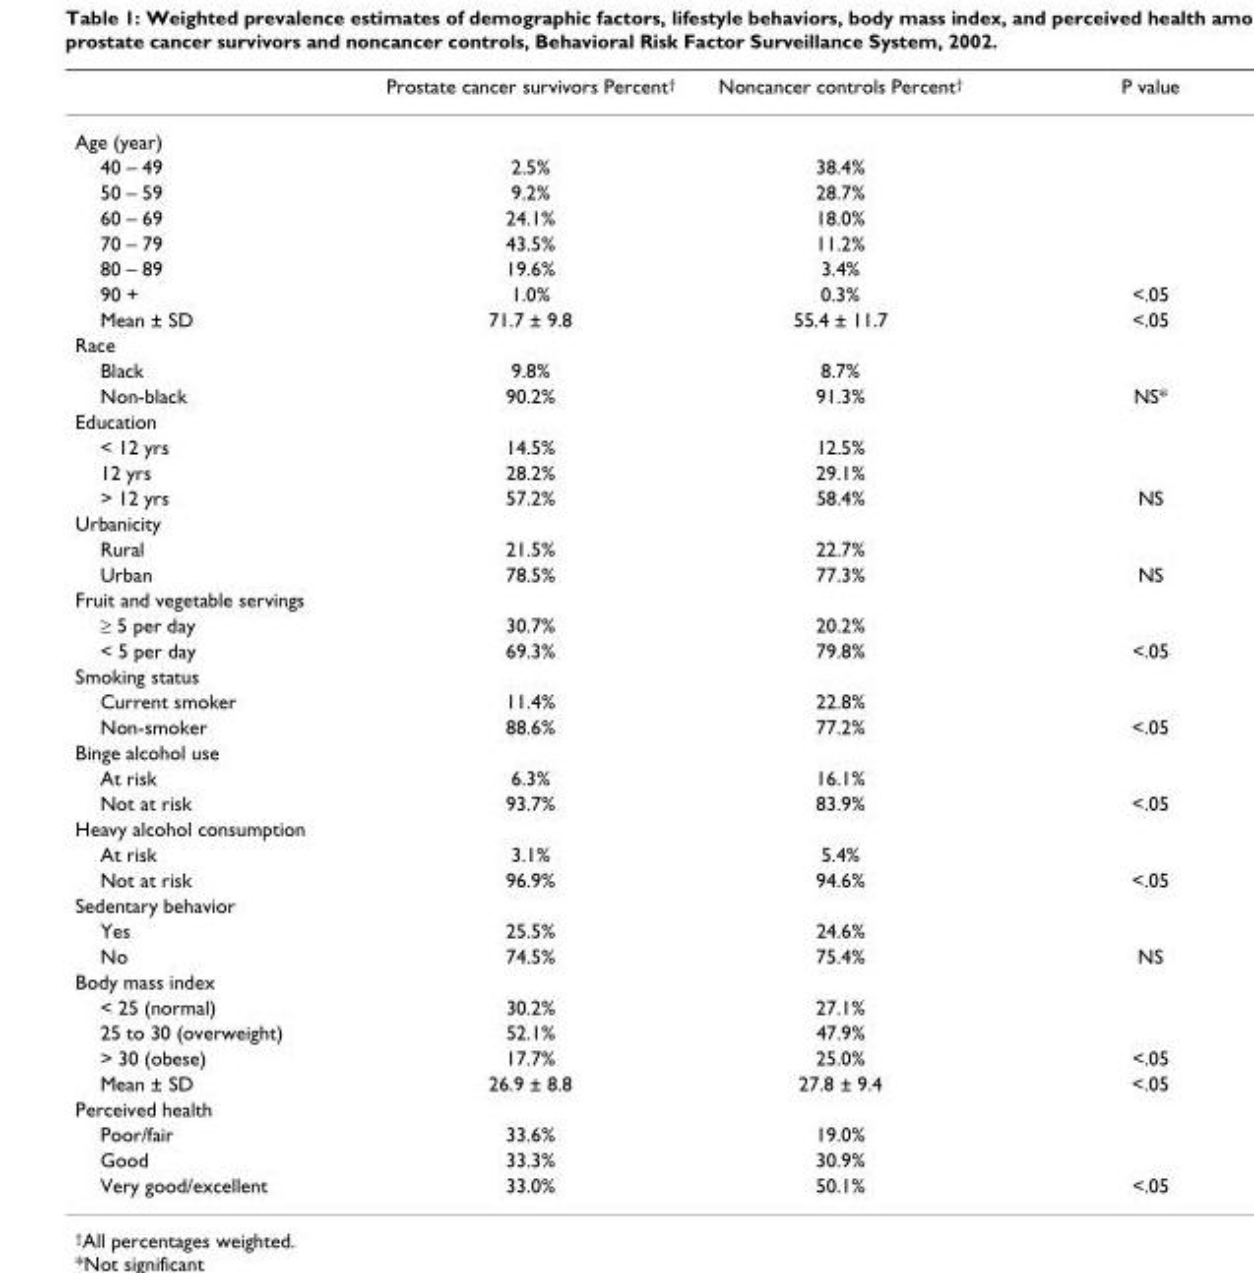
<table><thead><tr><td></td><td>Prostate cancer survivors Percent<sup>†</sup></td><td>Noncancer controls Percent<sup>†</sup></td><td>P value</td></tr></thead><tbody><tr><td colspan="4">Age (year)</td></tr><tr><td>40 – 49</td><td>2.5%</td><td>38.4%</td><td></td></tr><tr><td>50 – 59</td><td>9.2%</td><td>28.7%</td><td></td></tr><tr><td>60 – 69</td><td>24.1%</td><td>18.0%</td><td></td></tr><tr><td>70 – 79</td><td>43.5%</td><td>11.2%</td><td></td></tr><tr><td>80 – 89</td><td>19.6%</td><td>3.4%</td><td></td></tr><tr><td>90 +</td><td>1.0%</td><td>0.3%</td><td>&lt;.05</td></tr><tr><td>Mean ± SD</td><td>71.7 ± 9.8</td><td>55.4 ± 11.7</td><td>&lt;.05</td></tr><tr><td colspan="4">Race</td></tr><tr><td>Black</td><td>9.8%</td><td>8.7%</td><td></td></tr><tr><td>Non-black</td><td>90.2%</td><td>91.3%</td><td>NS*</td></tr><tr><td colspan="4">Education</td></tr><tr><td>&lt; 12 yrs</td><td>14.5%</td><td>12.5%</td><td></td></tr><tr><td>12 yrs</td><td>28.2%</td><td>29.1%</td><td></td></tr><tr><td>&gt; 12 yrs</td><td>57.2%</td><td>58.4%</td><td>NS</td></tr><tr><td colspan="4">Urbanicity</td></tr><tr><td>Rural</td><td>21.5%</td><td>22.7%</td><td></td></tr><tr><td>Urban</td><td>78.5%</td><td>77.3%</td><td>NS</td></tr><tr><td colspan="4">Fruit and vegetable servings</td></tr><tr><td>≥ 5 per day</td><td>30.7%</td><td>20.2%</td><td></td></tr><tr><td>&lt; 5 per day</td><td>69.3%</td><td>79.8%</td><td>&lt;.05</td></tr><tr><td colspan="4">Smoking status</td></tr><tr><td>Current smoker</td><td>11.4%</td><td>22.8%</td><td></td></tr><tr><td>Non-smoker</td><td>88.6%</td><td>77.2%</td><td>&lt;.05</td></tr><tr><td colspan="4">Binge alcohol use</td></tr><tr><td>At risk</td><td>6.3%</td><td>16.1%</td><td></td></tr><tr><td>Not at risk</td><td>93.7%</td><td>83.9%</td><td>&lt;.05</td></tr><tr><td colspan="4">Heavy alcohol consumption</td></tr><tr><td>At risk</td><td>3.1%</td><td>5.4%</td><td></td></tr><tr><td>Not at risk</td><td>96.9%</td><td>94.6%</td><td>&lt;.05</td></tr><tr><td colspan="4">Sedentary behavior</td></tr><tr><td>Yes</td><td>25.5%</td><td>24.6%</td><td></td></tr><tr><td>No</td><td>74.5%</td><td>75.4%</td><td>NS</td></tr><tr><td colspan="4">Body mass index</td></tr><tr><td>&lt; 25 (normal)</td><td>30.2%</td><td>27.1%</td><td></td></tr><tr><td>25 to 30 (overweight)</td><td>52.1%</td><td>47.9%</td><td></td></tr><tr><td>&gt; 30 (obese)</td><td>17.7%</td><td>25.0%</td><td>&lt;.05</td></tr><tr><td>Mean ± SD</td><td>26.9 ± 8.8</td><td>27.8 ± 9.4</td><td>&lt;.05</td></tr><tr><td colspan="4">Perceived health</td></tr><tr><td>Poor/fair</td><td>33.6%</td><td>19.0%</td><td></td></tr><tr><td>Good</td><td>33.3%</td><td>30.9%</td><td></td></tr><tr><td>Very good/excellent</td><td>33.0%</td><td>50.1%</td><td>&lt;.05</td></tr></tbody></table>